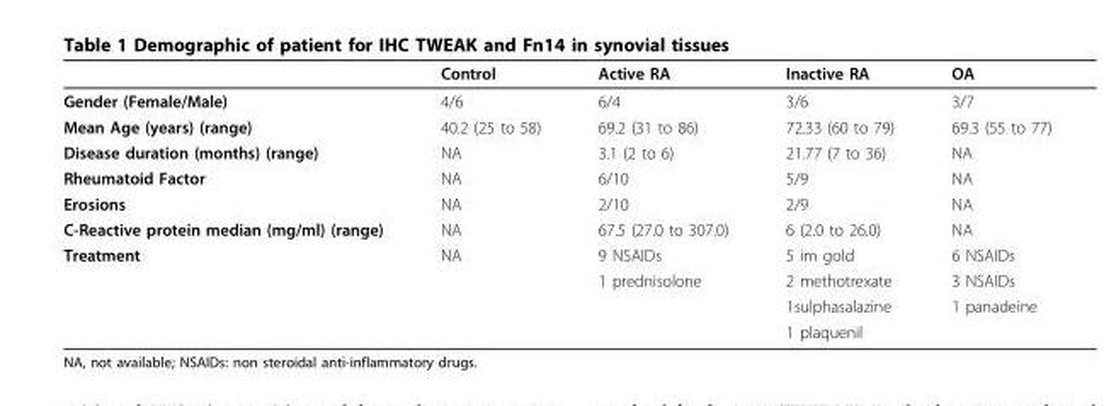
<table><thead><tr><td></td><td>Control</td><td>Active RA</td><td>Inactive RA</td><td>OA</td></tr></thead><tbody><tr><td>Gender (Female/Male)</td><td>4/6</td><td>6/4</td><td>3/6</td><td>3/7</td></tr><tr><td>Mean Age (years) (range)</td><td>40.2 (25 to 58)</td><td>69.2 (31 to 86)</td><td>72.33 (60 to 79)</td><td>69.3 (55 to 77)</td></tr><tr><td>Disease duration (months) (range)</td><td>NA</td><td>3.1 (2 to 6)</td><td>21.77 (7 to 36)</td><td>NA</td></tr><tr><td>Rheumatoid Factor</td><td>NA</td><td>6/10</td><td>5/9</td><td>NA</td></tr><tr><td>Erosions</td><td>NA</td><td>2/10</td><td>2/9</td><td>NA</td></tr><tr><td>C-Reactive protein median (mg/ml) (range)</td><td>NA</td><td>67.5 (27.0 to 307.0)</td><td>6 (2.0 to 26.0)</td><td>NA</td></tr><tr><td rowspan="4">Treatment</td><td>NA</td><td>9 NSAIDs</td><td>5 im gold</td><td>6 NSAIDs</td></tr><tr><td></td><td>1 prednisolone</td><td>2 methotrexate</td><td>3 NSAIDs</td></tr><tr><td></td><td></td><td>1sulphasalazine</td><td>1 panadeine</td></tr><tr><td></td><td></td><td>1 plaquenil</td><td></td></tr></tbody></table>